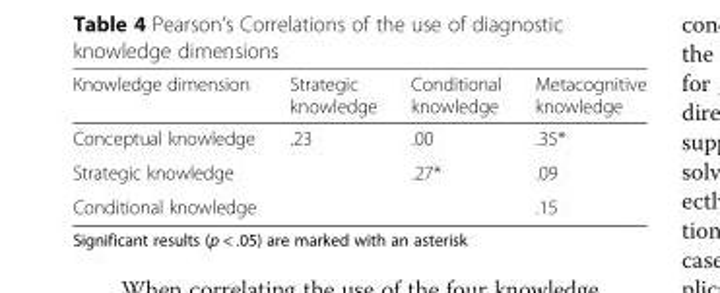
<table><thead><tr><td>Knowledge dimension</td><td>Strategic knowledge</td><td>Conditional knowledge</td><td>Metacognitive knowledge</td></tr></thead><tbody><tr><td>Conceptual knowledge</td><td>.23</td><td>.00</td><td>.35*</td></tr><tr><td>Strategic knowledge</td><td></td><td>.27*</td><td>.09</td></tr><tr><td>Conditional knowledge</td><td></td><td></td><td>.15</td></tr></tbody></table>